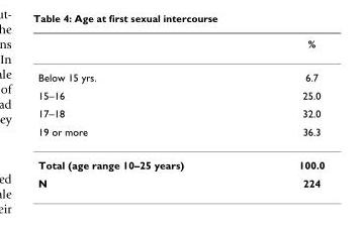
<table><thead><tr><td></td><td>%</td></tr></thead><tbody><tr><td>Below 15 yrs.</td><td>6.7</td></tr><tr><td>15–16</td><td>25.0</td></tr><tr><td>17–18</td><td>32.0</td></tr><tr><td>19 or more</td><td>36.3</td></tr><tr><td>Total (age range 10–25 years)</td><td>100.0</td></tr><tr><td>N</td><td>224</td></tr></tbody></table>